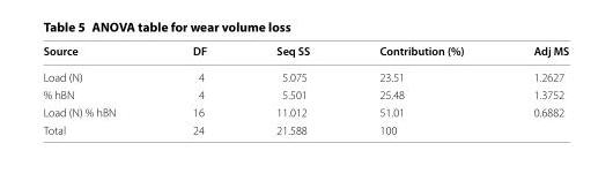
<table><thead><tr><td>Source</td><td>DF</td><td>Seq SS</td><td>Contribution (%)</td><td>Adj MS</td></tr></thead><tbody><tr><td>Load (N)</td><td>4</td><td>5.075</td><td>23.51</td><td>1.2627</td></tr><tr><td>% hBN</td><td>4</td><td>5.501</td><td>25.48</td><td>1.3752</td></tr><tr><td>Load (N) % hBN</td><td>16</td><td>11.012</td><td>51.01</td><td>0.6882</td></tr><tr><td>Total</td><td>24</td><td>21.588</td><td>100</td><td></td></tr></tbody></table>